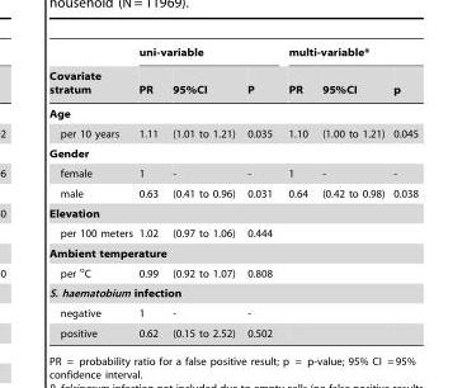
<table><thead><tr><td rowspan="2">Covariate stratum</td><td colspan="3">uni-variable</td><td colspan="3">multi-variable*</td></tr><tr><td>PR</td><td>95%CI</td><td>P</td><td>PR</td><td>95%CI</td><td>p</td></tr></thead><tbody><tr><td colspan="7">Age</td></tr><tr><td>per 10 years</td><td>1.11</td><td>(1.01 to 1.21)</td><td>0.035</td><td>1.10</td><td>(1.00 to 1.21)</td><td>0.045</td></tr><tr><td colspan="7">Gender</td></tr><tr><td>female</td><td>1</td><td>-</td><td>-</td><td>1</td><td>-</td><td>-</td></tr><tr><td>male</td><td>0.63</td><td>(0.41 to 0.96)</td><td>0.031</td><td>0.64</td><td>(0.42 to 0.98)</td><td>0.038</td></tr><tr><td colspan="7">Elevation</td></tr><tr><td>per 100 meters</td><td>1.02</td><td>(0.97 to 1.06)</td><td>0.444</td><td></td><td></td><td></td></tr><tr><td colspan="7">Ambient temperature</td></tr><tr><td>per <sup>o</sup>C</td><td>0.99</td><td>(0.92 to 1.07)</td><td>0.808</td><td></td><td></td><td></td></tr><tr><td colspan="7">S. haematobium infection</td></tr><tr><td>negative</td><td>1</td><td>-</td><td>-</td><td></td><td></td><td></td></tr><tr><td>positive</td><td>0.62</td><td>(0.15 to 2.52)</td><td>0.502</td><td></td><td></td><td></td></tr></tbody></table>